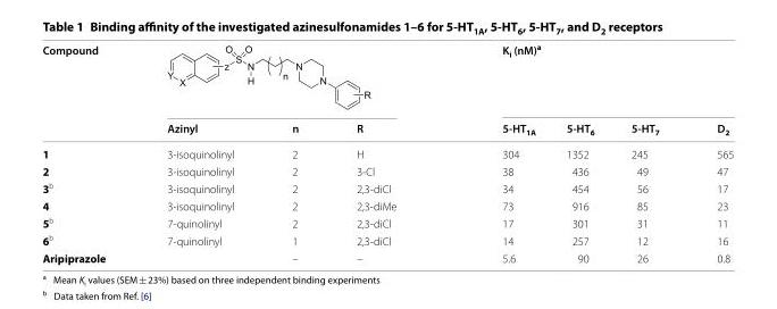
<table><thead><tr><td rowspan="2">Compound</td><td rowspan="2">Azinyl</td><td rowspan="2">n</td><td rowspan="2">R</td><td colspan="4">K<sub>i</sub> (nM)<sup>a</sup></td></tr><tr><td>5-HT<sub>1A</sub></td><td>5-HT<sub>6</sub></td><td>5-HT<sub>7</sub></td><td>D<sub>2</sub></td></tr></thead><tbody><tr><td>1</td><td>3-isoquinolinyl</td><td>2</td><td>H</td><td>304</td><td>1352</td><td>245</td><td>565</td></tr><tr><td>2</td><td>3-isoquinolinyl</td><td>2</td><td>3-Cl</td><td>38</td><td>436</td><td>49</td><td>47</td></tr><tr><td>3<sup>b</sup></td><td>3-isoquinolinyl</td><td>2</td><td>2,3-diCl</td><td>34</td><td>454</td><td>56</td><td>17</td></tr><tr><td>4</td><td>3-isoquinolinyl</td><td>2</td><td>2,3-diMe</td><td>73</td><td>916</td><td>85</td><td>23</td></tr><tr><td>5<sup>b</sup></td><td>7-quinolinyl</td><td>2</td><td>2,3-diCl</td><td>17</td><td>301</td><td>31</td><td>11</td></tr><tr><td>6<sup>b</sup></td><td>7-quinolinyl</td><td>1</td><td>2,3-diCl</td><td>14</td><td>257</td><td>12</td><td>16</td></tr><tr><td colspan="2">Aripiprazole</td><td>–</td><td>–</td><td>5.6</td><td>90</td><td>26</td><td>0.8</td></tr></tbody></table>